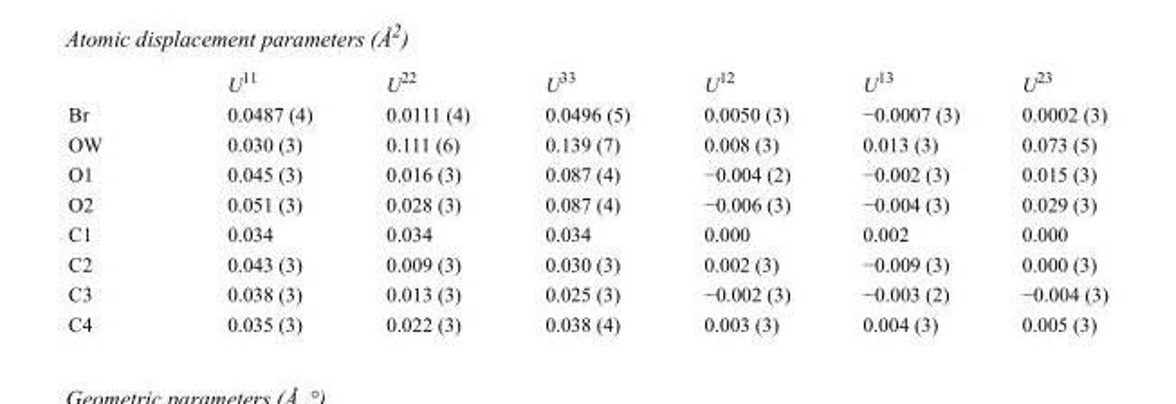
<table><thead><tr><td></td><td>U<sup>11</sup></td><td>U<sup>22</sup></td><td>U<sup>33</sup></td><td>U<sup>12</sup></td><td>U<sup>13</sup></td><td>U<sup>23</sup></td></tr></thead><tbody><tr><td>Br</td><td>0.0487 (4)</td><td>0.0111 (4)</td><td>0.0496 (5)</td><td>0.0050 (3)</td><td>−0.0007 (3)</td><td>0.0002 (3)</td></tr><tr><td>OW</td><td>0.030 (3)</td><td>0.111 (6)</td><td>0.139 (7)</td><td>0.008 (3)</td><td>0.013 (3)</td><td>0.073 (5)</td></tr><tr><td>O1</td><td>0.045 (3)</td><td>0.016 (3)</td><td>0.087 (4)</td><td>−0.004 (2)</td><td>−0.002 (3)</td><td>0.015 (3)</td></tr><tr><td>O2</td><td>0.051 (3)</td><td>0.028 (3)</td><td>0.087 (4)</td><td>−0.006 (3)</td><td>−0.004 (3)</td><td>0.029 (3)</td></tr><tr><td>C1</td><td>0.034</td><td>0.034</td><td>0.034</td><td>0.000</td><td>0.002</td><td>0.000</td></tr><tr><td>C2</td><td>0.043 (3)</td><td>0.009 (3)</td><td>0.030 (3)</td><td>0.002 (3)</td><td>−0.009 (3)</td><td>0.000 (3)</td></tr><tr><td>C3</td><td>0.038 (3)</td><td>0.013 (3)</td><td>0.025 (3)</td><td>−0.002 (3)</td><td>−0.003 (2)</td><td>−0.004 (3)</td></tr><tr><td>C4</td><td>0.035 (3)</td><td>0.022 (3)</td><td>0.038 (4)</td><td>0.003 (3)</td><td>0.004 (3)</td><td>0.005 (3)</td></tr></tbody></table>